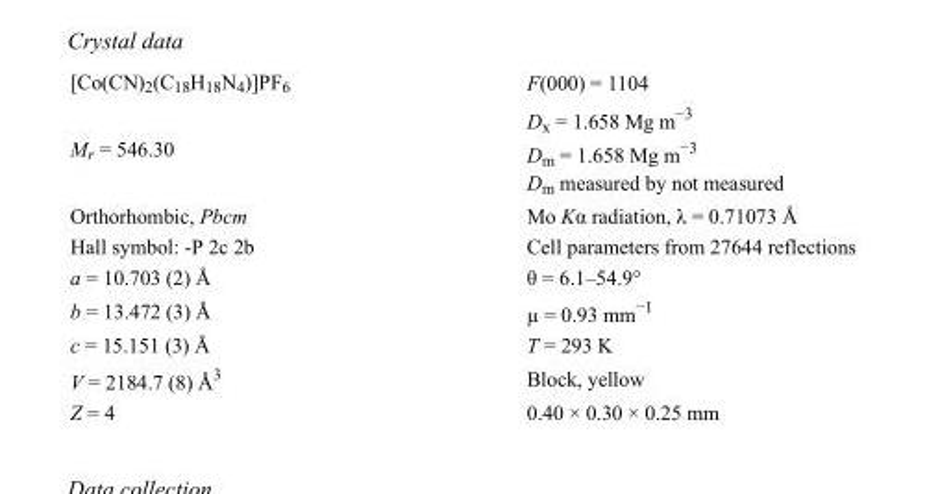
<table><tbody><tr><td>[Co(CN)<sub>2</sub>(C<sub>18</sub>H<sub>18</sub>N<sub>4</sub>)]PF<sub>6</sub></td><td>F(000) = 1104</td></tr><tr><td>M<sub>r</sub> = 546.30</td><td>D<sub>x</sub> = 1.658 Mg m<sup>−3</sup> D<sub>m</sub> = 1.658 Mg m<sup>−3</sup> D<sub>m</sub> measured by not measured</td></tr><tr><td>Orthorhombic, Pbcm</td><td>Mo Kα radiation, λ = 0.71073 Å</td></tr><tr><td>Hall symbol: -P 2c 2b</td><td>Cell parameters from 27644 reflections</td></tr><tr><td>a = 10.703 (2) Å</td><td>θ = 6.1–54.9°</td></tr><tr><td>b = 13.472 (3) Å</td><td>µ = 0.93 mm<sup>−1</sup></td></tr><tr><td>c = 15.151 (3) Å</td><td>T = 293 K</td></tr><tr><td>V = 2184.7 (8) Å<sup>3</sup></td><td>Block, yellow</td></tr><tr><td>Z = 4</td><td>0.40 × 0.30 × 0.25 mm</td></tr></tbody></table>